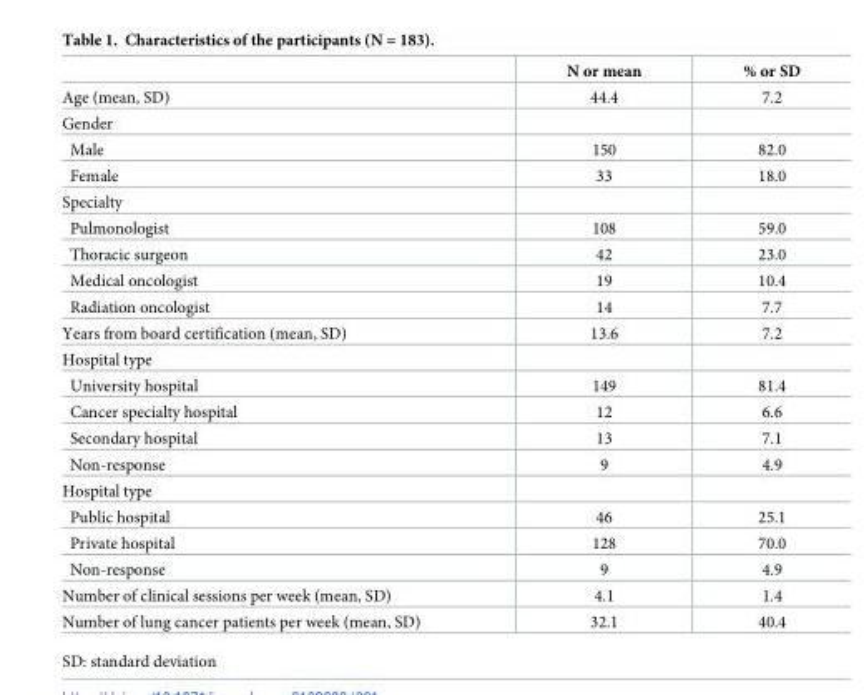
<table><thead><tr><td></td><td>N or mean</td><td>% or SD</td></tr></thead><tbody><tr><td>Age (mean, SD)</td><td>44.4</td><td>7.2</td></tr><tr><td colspan="3">Gender</td></tr><tr><td>Male</td><td>150</td><td>82.0</td></tr><tr><td>Female</td><td>33</td><td>18.0</td></tr><tr><td colspan="3">Specialty</td></tr><tr><td>Pulmonologist</td><td>108</td><td>59.0</td></tr><tr><td>Thoracic surgeon</td><td>42</td><td>23.0</td></tr><tr><td>Medical oncologist</td><td>19</td><td>10.4</td></tr><tr><td>Radiation oncologist</td><td>14</td><td>7.7</td></tr><tr><td>Years from board certification (mean, SD)</td><td>13.6</td><td>7.2</td></tr><tr><td colspan="3">Hospital type</td></tr><tr><td>University hospital</td><td>149</td><td>81.4</td></tr><tr><td>Cancer specialty hospital</td><td>12</td><td>6.6</td></tr><tr><td>Secondary hospital</td><td>13</td><td>7.1</td></tr><tr><td>Non-response</td><td>9</td><td>4.9</td></tr><tr><td colspan="3">Hospital type</td></tr><tr><td>Public hospital</td><td>46</td><td>25.1</td></tr><tr><td>Private hospital</td><td>128</td><td>70.0</td></tr><tr><td>Non-response</td><td>9</td><td>4.9</td></tr><tr><td>Number of clinical sessions per week (mean, SD)</td><td>4.1</td><td>1.4</td></tr><tr><td>Number of lung cancer patients per week (mean, SD)</td><td>32.1</td><td>40.4</td></tr></tbody></table>